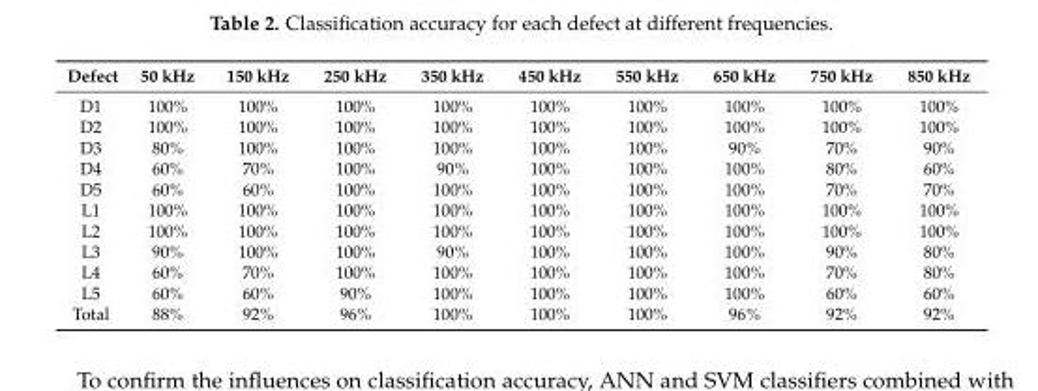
<table><thead><tr><td>Defect</td><td>50 kHz</td><td>150 kHz</td><td>250 kHz</td><td>350 kHz</td><td>450 kHz</td><td>550 kHz</td><td>650 kHz</td><td>750 kHz</td><td>850 kHz</td></tr></thead><tbody><tr><td>D1</td><td>100%</td><td>100%</td><td>100%</td><td>100%</td><td>100%</td><td>100%</td><td>100%</td><td>100%</td><td>100%</td></tr><tr><td>D2</td><td>100%</td><td>100%</td><td>100%</td><td>100%</td><td>100%</td><td>100%</td><td>100%</td><td>100%</td><td>100%</td></tr><tr><td>D3</td><td>80%</td><td>100%</td><td>100%</td><td>100%</td><td>100%</td><td>100%</td><td>90%</td><td>70%</td><td>90%</td></tr><tr><td>D4</td><td>60%</td><td>70%</td><td>100%</td><td>90%</td><td>100%</td><td>100%</td><td>100%</td><td>80%</td><td>60%</td></tr><tr><td>D5</td><td>60%</td><td>60%</td><td>100%</td><td>100%</td><td>100%</td><td>100%</td><td>100%</td><td>70%</td><td>70%</td></tr><tr><td>L1</td><td>100%</td><td>100%</td><td>100%</td><td>100%</td><td>100%</td><td>100%</td><td>100%</td><td>100%</td><td>100%</td></tr><tr><td>L2</td><td>100%</td><td>100%</td><td>100%</td><td>100%</td><td>100%</td><td>100%</td><td>100%</td><td>100%</td><td>100%</td></tr><tr><td>L3</td><td>90%</td><td>100%</td><td>100%</td><td>90%</td><td>100%</td><td>100%</td><td>100%</td><td>90%</td><td>80%</td></tr><tr><td>L4</td><td>60%</td><td>70%</td><td>100%</td><td>100%</td><td>100%</td><td>100%</td><td>100%</td><td>70%</td><td>80%</td></tr><tr><td>L5</td><td>60%</td><td>60%</td><td>90%</td><td>100%</td><td>100%</td><td>100%</td><td>100%</td><td>60%</td><td>60%</td></tr><tr><td>Total</td><td>88%</td><td>92%</td><td>96%</td><td>100%</td><td>100%</td><td>100%</td><td>96%</td><td>92%</td><td>92%</td></tr></tbody></table>